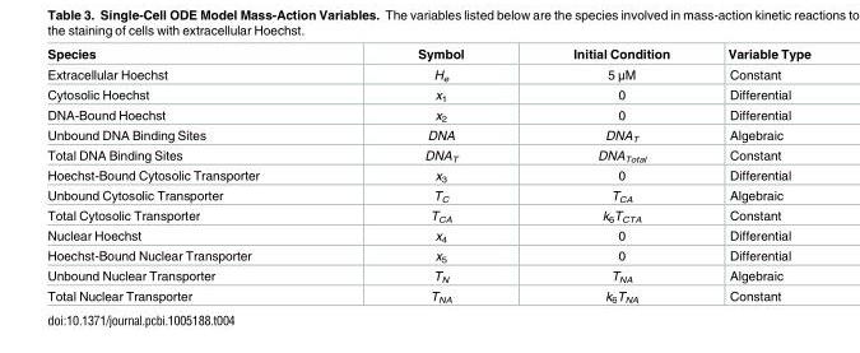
<table><thead><tr><td>Species</td><td>Symbol</td><td>Initial Condition</td><td>Variable Type</td></tr></thead><tbody><tr><td>Extracellular Hoechst</td><td>H<sub>e</sub></td><td>5 μM</td><td>Constant</td></tr><tr><td>Cytosolic Hoechst</td><td>x<sub>1</sub></td><td>0</td><td>Differential</td></tr><tr><td>DNA-Bound Hoechst</td><td>x<sub>2</sub></td><td>0</td><td>Differential</td></tr><tr><td>Unbound DNA Binding Sites</td><td>DNA</td><td>DNA<sub>T</sub></td><td>Algebraic</td></tr><tr><td>Total DNA Binding Sites</td><td>DNA<sub>T</sub></td><td>DNA<sub>Total</sub></td><td>Constant</td></tr><tr><td>Hoechst-Bound Cytosolic Transporter</td><td>x<sub>3</sub></td><td>0</td><td>Differential</td></tr><tr><td>Unbound Cytosolic Transporter</td><td>T<sub>C</sub></td><td>T<sub>CA</sub></td><td>Algebraic</td></tr><tr><td>Total Cytosolic Transporter</td><td>T<sub>CA</sub></td><td>k<sub>6</sub>T<sub>CTA</sub></td><td>Constant</td></tr><tr><td>Nuclear Hoechst</td><td>x<sub>4</sub></td><td>0</td><td>Differential</td></tr><tr><td>Hoechst-Bound Nuclear Transporter</td><td>x<sub>5</sub></td><td>0</td><td>Differential</td></tr><tr><td>Unbound Nuclear Transporter</td><td>T<sub>N</sub></td><td>T<sub>NA</sub></td><td>Algebraic</td></tr><tr><td>Total Nuclear Transporter</td><td>T<sub>NA</sub></td><td>k<sub>6</sub>T<sub>NA</sub></td><td>Constant</td></tr></tbody></table>